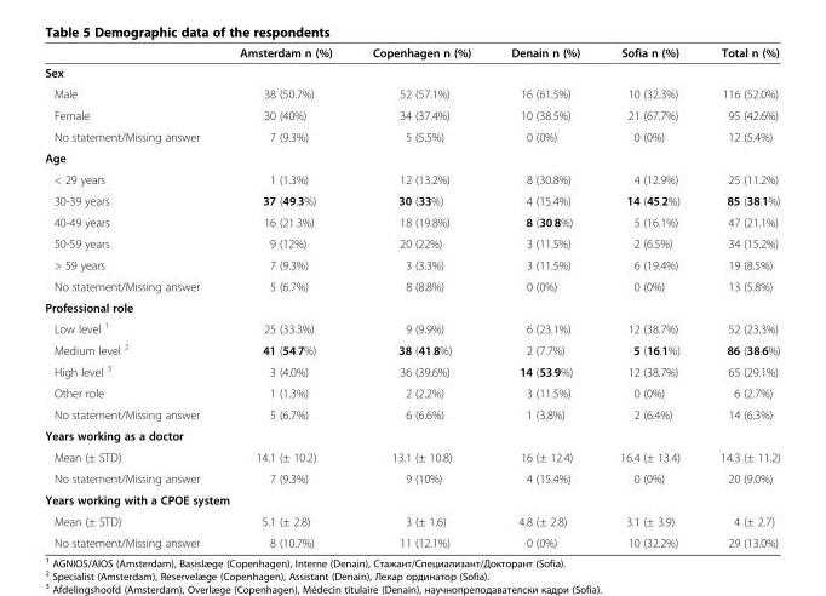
<table><thead><tr><td></td><td>Amsterdam n (%)</td><td>Copenhagen n (%)</td><td>Denain n (%)</td><td>Sofia n (%)</td><td>Total n (%)</td></tr></thead><tbody><tr><td colspan="6">Sex</td></tr><tr><td>Male</td><td>38 (50.7%)</td><td>52 (57.1%)</td><td>16 (61.5%)</td><td>10 (32.3%)</td><td>116 (52.0%)</td></tr><tr><td>Female</td><td>30 (40%)</td><td>34 (37.4%)</td><td>10 (38.5%)</td><td>21 (67.7%)</td><td>95 (42.6%)</td></tr><tr><td>No statement/Missing answer</td><td>7 (9.3%)</td><td>5 (5.5%)</td><td>0 (0%)</td><td>0 (0%)</td><td>12 (5.4%)</td></tr><tr><td colspan="6">Age</td></tr><tr><td>&lt; 29 years</td><td>1 (1.3%)</td><td>12 (13.2%)</td><td>8 (30.8%)</td><td>4 (12.9%)</td><td>25 (11.2%)</td></tr><tr><td>30-39 years</td><td>37 (49.3%)</td><td>30 (33%)</td><td>4 (15.4%)</td><td>14 (45.2%)</td><td>85 (38.1%)</td></tr><tr><td>40-49 years</td><td>16 (21.3%)</td><td>18 (19.8%)</td><td>8 (30.8%)</td><td>5 (16.1%)</td><td>47 (21.1%)</td></tr><tr><td>50-59 years</td><td>9 (12%)</td><td>20 (22%)</td><td>3 (11.5%)</td><td>2 (6.5%)</td><td>34 (15.2%)</td></tr><tr><td>&gt; 59 years</td><td>7 (9.3%)</td><td>3 (3.3%)</td><td>3 (11.5%)</td><td>6 (19.4%)</td><td>19 (8.5%)</td></tr><tr><td>No statement/Missing answer</td><td>5 (6.7%)</td><td>8 (8.8%)</td><td>0 (0%)</td><td>0 (0%)</td><td>13 (5.8%)</td></tr><tr><td colspan="6">Professional role</td></tr><tr><td>Low level <sup>1</sup></td><td>25 (33.3%)</td><td>9 (9.9%)</td><td>6 (23.1%)</td><td>12 (38.7%)</td><td>52 (23.3%)</td></tr><tr><td>Medium level <sup>2</sup></td><td>41 (54.7%)</td><td>38 (41.8%)</td><td>2 (7.7%)</td><td>5 (16.1%)</td><td>86 (38.6%)</td></tr><tr><td>High level <sup>3</sup></td><td>3 (4.0%)</td><td>36 (39.6%)</td><td>14 (53.9%)</td><td>12 (38.7%)</td><td>65 (29.1%)</td></tr><tr><td>Other role</td><td>1 (1.3%)</td><td>2 (2.2%)</td><td>3 (11.5%)</td><td>0 (0%)</td><td>6 (2.7%)</td></tr><tr><td>No statement/Missing answer</td><td>5 (6.7%)</td><td>6 (6.6%)</td><td>1 (3.8%)</td><td>2 (6.4%)</td><td>14 (6.3%)</td></tr><tr><td colspan="6">Years working as a doctor</td></tr><tr><td>Mean (± STD)</td><td>14.1 (± 10.2)</td><td>13.1 (± 10.8)</td><td>16 (± 12.4)</td><td>16.4 (± 13.4)</td><td>14.3 (± 11.2)</td></tr><tr><td>No statement/Missing answer</td><td>7 (9.3%)</td><td>9 (10%)</td><td>4 (15.4%)</td><td>0 (0%)</td><td>20 (9.0%)</td></tr><tr><td colspan="6">Years working with a CPOE system</td></tr><tr><td>Mean (± STD)</td><td>5.1 (± 2.8)</td><td>3 (± 1.6)</td><td>4.8 (± 2.8)</td><td>3.1 (± 3.9)</td><td>4 (± 2.7)</td></tr><tr><td>No statement/Missing answer</td><td>8 (10.7%)</td><td>11 (12.1%)</td><td>0 (0%)</td><td>10 (32.2%)</td><td>29 (13.0%)</td></tr></tbody></table>